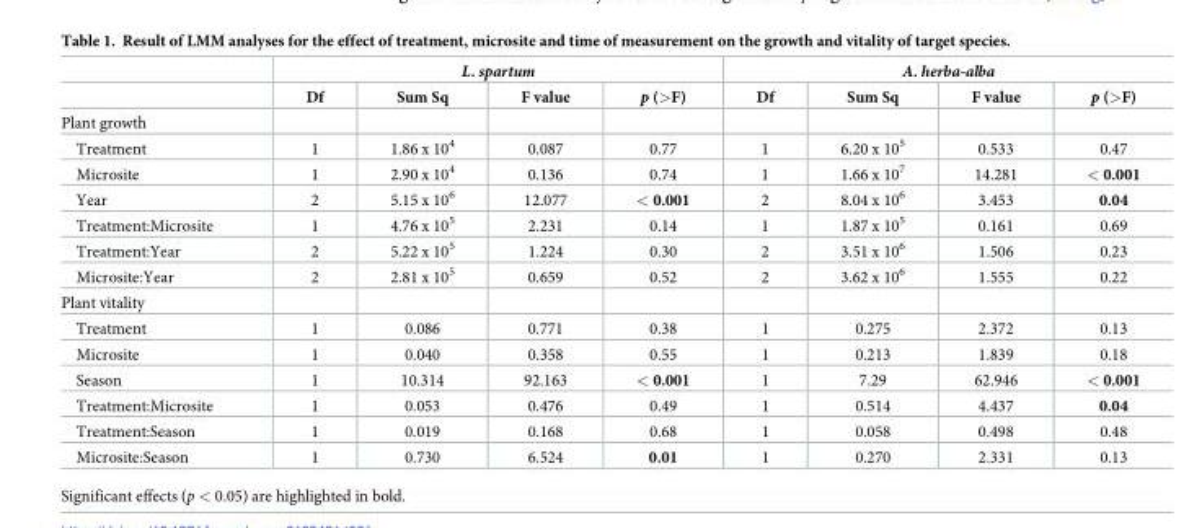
<table><thead><tr><td rowspan="2"></td><td colspan="4">L. spartum</td><td colspan="4">A. herba-alba</td></tr><tr><td>Df</td><td>Sum Sq</td><td>F value</td><td>p (&gt;F)</td><td>Df</td><td>Sum Sq</td><td>F value</td><td>p (&gt;F)</td></tr></thead><tbody><tr><td colspan="9">Plant growth</td></tr><tr><td>Treatment</td><td>1</td><td>1.86 x 10<sup>4</sup></td><td>0.087</td><td>0.77</td><td>1</td><td>6.20 x 10<sup>5</sup></td><td>0.533</td><td>0.47</td></tr><tr><td>Microsite</td><td>1</td><td>2.90 x 10<sup>4</sup></td><td>0.136</td><td>0.74</td><td>1</td><td>1.66 x 10<sup>7</sup></td><td>14.281</td><td>&lt; 0.001</td></tr><tr><td>Year</td><td>2</td><td>5.15 x 10<sup>6</sup></td><td>12.077</td><td>&lt; 0.001</td><td>2</td><td>8.04 x 10<sup>6</sup></td><td>3.453</td><td>0.04</td></tr><tr><td>Treatment:Microsite</td><td>1</td><td>4.76 x 10<sup>5</sup></td><td>2.231</td><td>0.14</td><td>1</td><td>1.87 x 10<sup>5</sup></td><td>0.161</td><td>0.69</td></tr><tr><td>Treatment:Year</td><td>2</td><td>5.22 x 10<sup>5</sup></td><td>1.224</td><td>0.30</td><td>2</td><td>3.51 x 10<sup>6</sup></td><td>1.506</td><td>0.23</td></tr><tr><td>Microsite:Year</td><td>2</td><td>2.81 x 10<sup>5</sup></td><td>0.659</td><td>0.52</td><td>2</td><td>3.62 x 10<sup>6</sup></td><td>1.555</td><td>0.22</td></tr><tr><td colspan="9">Plant vitality</td></tr><tr><td>Treatment</td><td>1</td><td>0.086</td><td>0.771</td><td>0.38</td><td>1</td><td>0.275</td><td>2.372</td><td>0.13</td></tr><tr><td>Microsite</td><td>1</td><td>0.040</td><td>0.358</td><td>0.55</td><td>1</td><td>0.213</td><td>1.839</td><td>0.18</td></tr><tr><td>Season</td><td>1</td><td>10.314</td><td>92.163</td><td>&lt; 0.001</td><td>1</td><td>7.29</td><td>62.946</td><td>&lt; 0.001</td></tr><tr><td>Treatment:Microsite</td><td>1</td><td>0.053</td><td>0.476</td><td>0.49</td><td>1</td><td>0.514</td><td>4.437</td><td>0.04</td></tr><tr><td>Treatment:Season</td><td>1</td><td>0.019</td><td>0.168</td><td>0.68</td><td>1</td><td>0.058</td><td>0.498</td><td>0.48</td></tr><tr><td>Microsite:Season</td><td>1</td><td>0.730</td><td>6.524</td><td>0.01</td><td>1</td><td>0.270</td><td>2.331</td><td>0.13</td></tr></tbody></table>